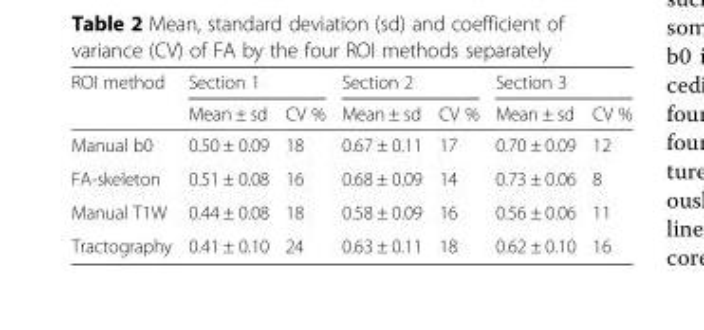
<table><thead><tr><td rowspan="2">ROI method</td><td colspan="2">Section 1</td><td colspan="2">Section 2</td><td colspan="2">Section 3</td></tr><tr><td>Mean ± sd</td><td>CV %</td><td>Mean ± sd</td><td>CV %</td><td>Mean ± sd</td><td>CV %</td></tr></thead><tbody><tr><td>Manual b0</td><td>0.50 ± 0.09</td><td>18</td><td>0.67 ± 0.11</td><td>17</td><td>0.70 ± 0.09</td><td>12</td></tr><tr><td>FA-skeleton</td><td>0.51 ± 0.08</td><td>16</td><td>0.68 ± 0.09</td><td>14</td><td>0.73 ± 0.06</td><td>8</td></tr><tr><td>Manual T1W</td><td>0.44 ± 0.08</td><td>18</td><td>0.58 ± 0.09</td><td>16</td><td>0.56 ± 0.06</td><td>11</td></tr><tr><td>Tractography</td><td>0.41 ± 0.10</td><td>24</td><td>0.63 ± 0.11</td><td>18</td><td>0.62 ± 0.10</td><td>16</td></tr></tbody></table>